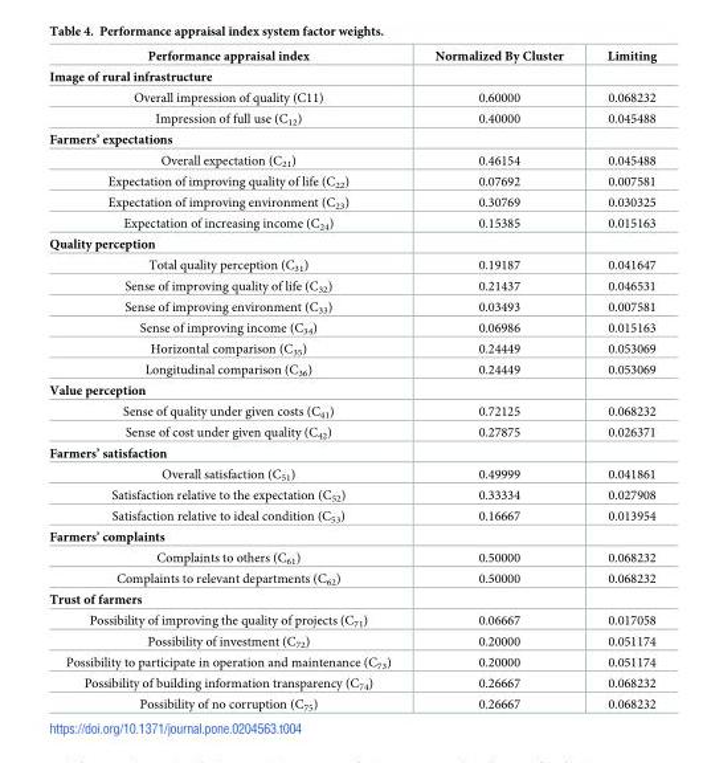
<table><thead><tr><td>Performance appraisal index</td><td>Normalized By Cluster</td><td>Limiting</td></tr></thead><tbody><tr><td colspan="3">Image of rural infrastructure</td></tr><tr><td>Overall impression of quality (C11)</td><td>0.60000</td><td>0.068232</td></tr><tr><td>Impression of full use (C<sub>12</sub>)</td><td>0.40000</td><td>0.045488</td></tr><tr><td colspan="3">Farmers’ expectations</td></tr><tr><td>Overall expectation (C<sub>21</sub>)</td><td>0.46154</td><td>0.045488</td></tr><tr><td>Expectation of improving quality of life (C<sub>22</sub>)</td><td>0.07692</td><td>0.007581</td></tr><tr><td>Expectation of improving environment (C<sub>23</sub>)</td><td>0.30769</td><td>0.030325</td></tr><tr><td>Expectation of increasing income (C<sub>24</sub>)</td><td>0.15385</td><td>0.015163</td></tr><tr><td colspan="3">Quality perception</td></tr><tr><td>Total quality perception (C<sub>31</sub>)</td><td>0.19187</td><td>0.041647</td></tr><tr><td>Sense of improving quality of life (C<sub>32</sub>)</td><td>0.21437</td><td>0.046531</td></tr><tr><td>Sense of improving environment (C<sub>33</sub>)</td><td>0.03493</td><td>0.007581</td></tr><tr><td>Sense of improving income (C<sub>34</sub>)</td><td>0.06986</td><td>0.015163</td></tr><tr><td>Horizontal comparison (C<sub>35</sub>)</td><td>0.24449</td><td>0.053069</td></tr><tr><td>Longitudinal comparison (C<sub>36</sub>)</td><td>0.24449</td><td>0.053069</td></tr><tr><td colspan="3">Value perception</td></tr><tr><td>Sense of quality under given costs (C<sub>41</sub>)</td><td>0.72125</td><td>0.068232</td></tr><tr><td>Sense of cost under given quality (C<sub>42</sub>)</td><td>0.27875</td><td>0.026371</td></tr><tr><td colspan="3">Farmers’ satisfaction</td></tr><tr><td>Overall satisfaction (C<sub>51</sub>)</td><td>0.49999</td><td>0.041861</td></tr><tr><td>Satisfaction relative to the expectation (C<sub>52</sub>)</td><td>0.33334</td><td>0.027908</td></tr><tr><td>Satisfaction relative to ideal condition (C<sub>53</sub>)</td><td>0.16667</td><td>0.013954</td></tr><tr><td colspan="3">Farmers’ complaints</td></tr><tr><td>Complaints to others (C<sub>61</sub>)</td><td>0.50000</td><td>0.068232</td></tr><tr><td>Complaints to relevant departments (C<sub>62</sub>)</td><td>0.50000</td><td>0.068232</td></tr><tr><td colspan="3">Trust of farmers</td></tr><tr><td>Possibility of improving the quality of projects (C<sub>71</sub>)</td><td>0.06667</td><td>0.017058</td></tr><tr><td>Possibility of investment (C<sub>72</sub>)</td><td>0.20000</td><td>0.051174</td></tr><tr><td>Possibility to participate in operation and maintenance (C<sub>73</sub>)</td><td>0.20000</td><td>0.051174</td></tr><tr><td>Possibility of building information transparency (C<sub>74</sub>)</td><td>0.26667</td><td>0.068232</td></tr><tr><td>Possibility of no corruption (C<sub>75</sub>)</td><td>0.26667</td><td>0.068232</td></tr></tbody></table>